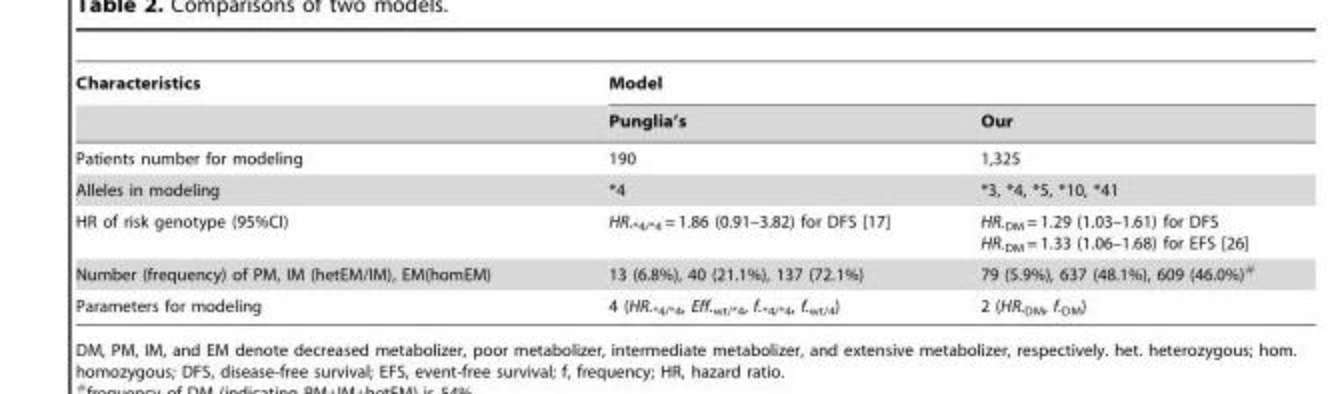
<table><thead><tr><td rowspan="2">Characteristics</td><td colspan="2">Model</td></tr><tr><td>Punglia’s</td><td>Our</td></tr></thead><tbody><tr><td>Patients number for modeling</td><td>190</td><td>1,325</td></tr><tr><td>Alleles in modeling</td><td>*4</td><td>*3, *4, *5, *10, *41</td></tr><tr><td>HR of risk genotype (95%CI)</td><td>HR.<sub>*4/*4</sub> = 1.86 (0.91–3.82) for DFS [17]</td><td>HR.<sub>DM</sub> = 1.29 (1.03–1.61) for DFS HR.<sub>DM</sub> = 1.33 (1.06–1.68) for EFS [26]</td></tr><tr><td>Number (frequency) of PM, IM (hetEM/IM), EM(homEM)</td><td>13 (6.8%), 40 (21.1%), 137 (72.1%)</td><td>79 (5.9%), 637 (48.1%), 609 (46.0%)#</td></tr><tr><td>Parameters for modeling</td><td>4 (HR.<sub>*4/*4</sub>, Eff.<sub>wt/*4</sub>, f.<sub>*4/*4</sub>, f.<sub>wt/4</sub>)</td><td>2 (HR.<sub>DM</sub>, f.<sub>DM</sub>)</td></tr></tbody></table>